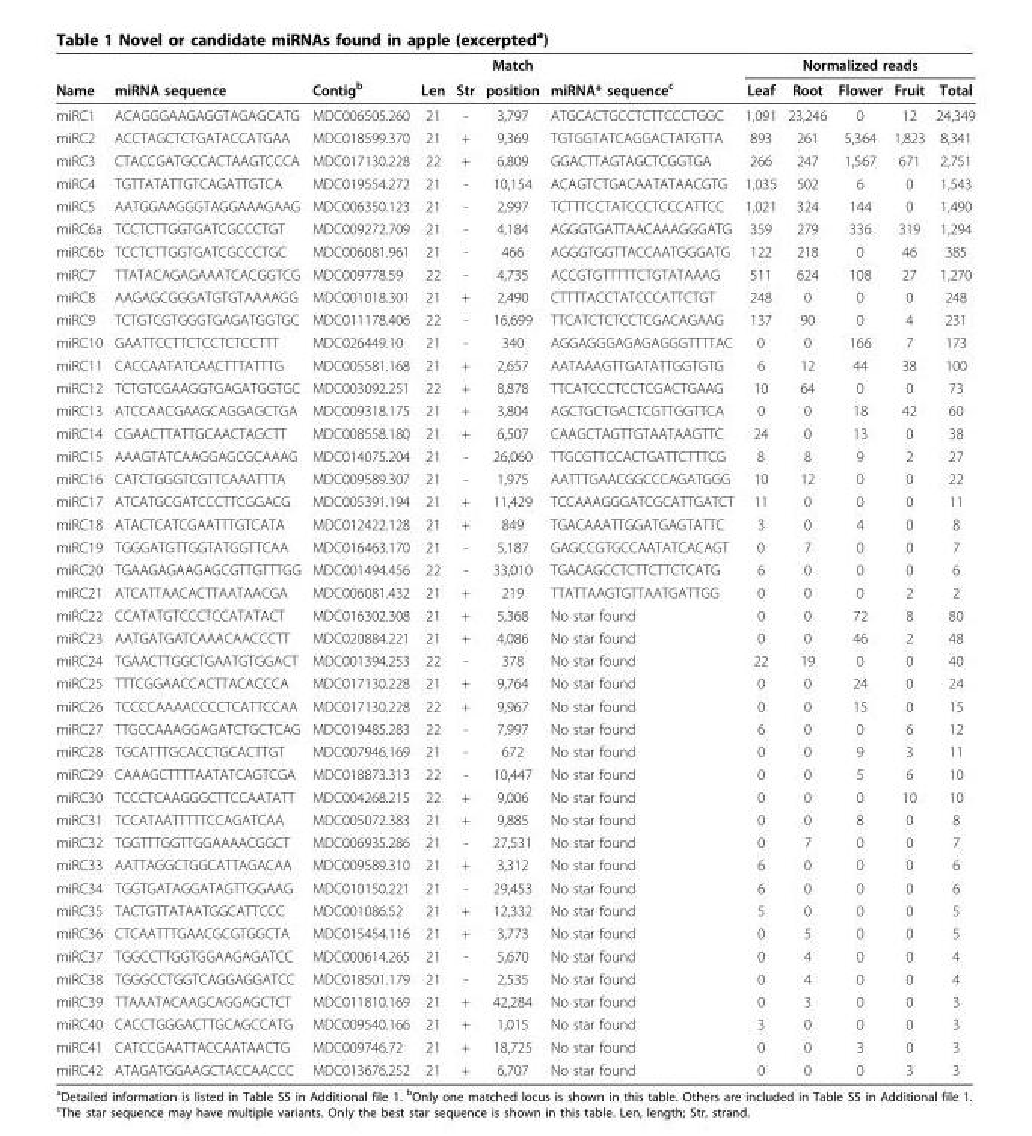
<table><thead><tr><td rowspan="2">Name</td><td rowspan="2">miRNA sequence</td><td rowspan="2">Contig<sup>b</sup></td><td rowspan="2">Len</td><td rowspan="2">Str</td><td rowspan="2">Match position</td><td rowspan="2">miRNA* sequence<sup>c</sup></td><td colspan="5">Normalized reads</td></tr><tr><td>Leaf</td><td>Root</td><td>Flower</td><td>Fruit</td><td>Total</td></tr></thead><tbody><tr><td>miRC1</td><td>ACAGGGAAGAGGTAGAGCATG</td><td>MDC006505.260</td><td>21</td><td>-</td><td>3,797</td><td>ATGCACTGCCTCTTCCCTGGC</td><td>1,091</td><td>23,246</td><td>0</td><td>12</td><td>24,349</td></tr><tr><td>miRC2</td><td>ACCTAGCTCTGATACCATGAA</td><td>MDC018599.370</td><td>21</td><td>+</td><td>9,369</td><td>TGTGGTATCAGGACTATGTTA</td><td>893</td><td>261</td><td>5,364</td><td>1,823</td><td>8,341</td></tr><tr><td>miRC3</td><td>CTACCGATGCCACTAAGTCCCA</td><td>MDC017130.228</td><td>22</td><td>+</td><td>6,809</td><td>GGACTTAGTAGCTCGGTGA</td><td>266</td><td>247</td><td>1,567</td><td>671</td><td>2,751</td></tr><tr><td>miRC4</td><td>TGTTATATTGTCAGATTGTCA</td><td>MDC019554.272</td><td>21</td><td>-</td><td>10,154</td><td>ACAGTCTGACAATATAACGTG</td><td>1,035</td><td>502</td><td>6</td><td>0</td><td>1,543</td></tr><tr><td>miRC5</td><td>AATGGAAGGGTAGGAAAGAAG</td><td>MDC006350.123</td><td>21</td><td>-</td><td>2,997</td><td>TCTTTCCTATCCCTCCCATTCC</td><td>1,021</td><td>324</td><td>144</td><td>0</td><td>1,490</td></tr><tr><td>miRC6a</td><td>TCCTCTTGGTGATCGCCCTGT</td><td>MDC009272.709</td><td>21</td><td>-</td><td>4,184</td><td>AGGGTGATTAACAAAGGGATG</td><td>359</td><td>279</td><td>336</td><td>319</td><td>1,294</td></tr><tr><td>miRC6b</td><td>TCCTCTTGGTGATCGCCCTGC</td><td>MDC006081.961</td><td>21</td><td>-</td><td>466</td><td>AGGGTGGTTACCAATGGGATG</td><td>122</td><td>218</td><td>0</td><td>46</td><td>385</td></tr><tr><td>miRC7</td><td>TTATACAGAGAAATCACGGTCG</td><td>MDC009778.59</td><td>22</td><td>-</td><td>4,735</td><td>ACCGTGTTTTTCTGTATAAAG</td><td>511</td><td>624</td><td>108</td><td>27</td><td>1,270</td></tr><tr><td>miRC8</td><td>AAGAGCGGGATGTGTAAAAGG</td><td>MDC001018.301</td><td>21</td><td>+</td><td>2,490</td><td>CTTTTACCTATCCCATTCTGT</td><td>248</td><td>0</td><td>0</td><td>0</td><td>248</td></tr><tr><td>miRC9</td><td>TCTGTCGTGGGTGAGATGGTGC</td><td>MDC011178.406</td><td>22</td><td>-</td><td>16,699</td><td>TTCATCTCTCCTCGACAGAAG</td><td>137</td><td>90</td><td>0</td><td>4</td><td>231</td></tr><tr><td>miRC10</td><td>GAATTCCTTCTCCTCTCCTTT</td><td>MDC026449.10</td><td>21</td><td>-</td><td>340</td><td>AGGAGGGAGAGAGGGTTTTAC</td><td>0</td><td>0</td><td>166</td><td>7</td><td>173</td></tr><tr><td>miRC11</td><td>CACCAATATCAACTTTATTTG</td><td>MDC005581.168</td><td>21</td><td>+</td><td>2,657</td><td>AATAAAGTTGATATTGGTGTG</td><td>6</td><td>12</td><td>44</td><td>38</td><td>100</td></tr><tr><td>miRC12</td><td>TCTGTCGAAGGTGAGATGGTGC</td><td>MDC003092.251</td><td>22</td><td>+</td><td>8,878</td><td>TTCATCCCTCCTCGACTGAAG</td><td>10</td><td>64</td><td>0</td><td>0</td><td>73</td></tr><tr><td>miRC13</td><td>ATCCAACGAAGCAGGAGCTGA</td><td>MDC009318.175</td><td>21</td><td>+</td><td>3,804</td><td>AGCTGCTGACTCGTTGGTTCA</td><td>0</td><td>0</td><td>18</td><td>42</td><td>60</td></tr><tr><td>miRC14</td><td>CGAACTTATTGCAACTAGCTT</td><td>MDC008558.180</td><td>21</td><td>+</td><td>6,507</td><td>CAAGCTAGTTGTAATAAGTTC</td><td>24</td><td>0</td><td>13</td><td>0</td><td>38</td></tr><tr><td>miRC15</td><td>AAAGTATCAAGGAGCGCAAAG</td><td>MDC014075.204</td><td>21</td><td>-</td><td>26,060</td><td>TTGCGTTCCACTGATTCTTTCG</td><td>8</td><td>8</td><td>9</td><td>2</td><td>27</td></tr><tr><td>miRC16</td><td>CATCTGGGTCGTTCAAATTTA</td><td>MDC009589.307</td><td>21</td><td>-</td><td>1,975</td><td>AATTTGAACGGCCCAGATGGG</td><td>10</td><td>12</td><td>0</td><td>0</td><td>22</td></tr><tr><td>miRC17</td><td>ATCATGCGATCCCTTCGGACG</td><td>MDC005391.194</td><td>21</td><td>+</td><td>11,429</td><td>TCCAAAGGGATCGCATTGATCT</td><td>11</td><td>0</td><td>0</td><td>0</td><td>11</td></tr><tr><td>miRC18</td><td>ATACTCATCGAATTTGTCATA</td><td>MDC012422.128</td><td>21</td><td>+</td><td>849</td><td>TGACAAATTGGATGAGTATTC</td><td>3</td><td>0</td><td>4</td><td>0</td><td>8</td></tr><tr><td>miRC19</td><td>TGGGATGTTGGTATGGTTCAA</td><td>MDC016463.170</td><td>21</td><td>-</td><td>5,187</td><td>GAGCCGTGCCAATATCACAGT</td><td>0</td><td>7</td><td>0</td><td>0</td><td>7</td></tr><tr><td>miRC20</td><td>TGAAGAGAAGAGCGTTGTTTGG</td><td>MDC001494.456</td><td>22</td><td>-</td><td>33,010</td><td>TGACAGCCTCTTCTTCTCATG</td><td>6</td><td>0</td><td>0</td><td>0</td><td>6</td></tr><tr><td>miRC21</td><td>ATCATTAACACTTAATAACGA</td><td>MDC006081.432</td><td>21</td><td>+</td><td>219</td><td>TTATTAAGTGTTAATGATTGG</td><td>0</td><td>0</td><td>0</td><td>2</td><td>2</td></tr><tr><td>miRC22</td><td>CCATATGTCCCTCCATATACT</td><td>MDC016302.308</td><td>21</td><td>+</td><td>5,368</td><td>No star found</td><td>0</td><td>0</td><td>72</td><td>8</td><td>80</td></tr><tr><td>miRC23</td><td>AATGATGATCAAACAACCCTT</td><td>MDC020884.221</td><td>21</td><td>+</td><td>4,086</td><td>No star found</td><td>0</td><td>0</td><td>46</td><td>2</td><td>48</td></tr><tr><td>miRC24</td><td>TGAACTTGGCTGAATGTGGACT</td><td>MDC001394.253</td><td>22</td><td>-</td><td>378</td><td>No star found</td><td>22</td><td>19</td><td>0</td><td>0</td><td>40</td></tr><tr><td>miRC25</td><td>TTTCGGAACCACTTACACCCA</td><td>MDC017130.228</td><td>21</td><td>+</td><td>9,764</td><td>No star found</td><td>0</td><td>0</td><td>24</td><td>0</td><td>24</td></tr><tr><td>miRC26</td><td>TCCCCAAAACCCCTCATTCCAA</td><td>MDC017130.228</td><td>22</td><td>+</td><td>9,967</td><td>No star found</td><td>0</td><td>0</td><td>15</td><td>0</td><td>15</td></tr><tr><td>miRC27</td><td>TTGCCAAAGGAGATCTGCTCAG</td><td>MDC019485.283</td><td>22</td><td>-</td><td>7,997</td><td>No star found</td><td>6</td><td>0</td><td>0</td><td>6</td><td>12</td></tr><tr><td>miRC28</td><td>TGCATTTGCACCTGCACTTGT</td><td>MDC007946.169</td><td>21</td><td>-</td><td>672</td><td>No star found</td><td>0</td><td>0</td><td>9</td><td>3</td><td>11</td></tr><tr><td>miRC29</td><td>CAAAGCTTTTAATATCAGTCGA</td><td>MDC018873.313</td><td>22</td><td>-</td><td>10,447</td><td>No star found</td><td>0</td><td>0</td><td>5</td><td>6</td><td>10</td></tr><tr><td>miRC30</td><td>TCCCTCAAGGGCTTCCAATATT</td><td>MDC004268.215</td><td>22</td><td>+</td><td>9,006</td><td>No star found</td><td>0</td><td>0</td><td>0</td><td>10</td><td>10</td></tr><tr><td>miRC31</td><td>TCCATAATTTTTCCAGATCAA</td><td>MDC005072.383</td><td>21</td><td>+</td><td>9,885</td><td>No star found</td><td>0</td><td>0</td><td>8</td><td>0</td><td>8</td></tr><tr><td>miRC32</td><td>TGGTTTGGTTGGAAAACGGCT</td><td>MDC006935.286</td><td>21</td><td>-</td><td>27,531</td><td>No star found</td><td>0</td><td>7</td><td>0</td><td>0</td><td>7</td></tr><tr><td>miRC33</td><td>AATTAGGCTGGCATTAGACAA</td><td>MDC009589.310</td><td>21</td><td>+</td><td>3,312</td><td>No star found</td><td>6</td><td>0</td><td>0</td><td>0</td><td>6</td></tr><tr><td>miRC34</td><td>TGGTGATAGGATAGTTGGAAG</td><td>MDC010150.221</td><td>21</td><td>-</td><td>29,453</td><td>No star found</td><td>6</td><td>0</td><td>0</td><td>0</td><td>6</td></tr><tr><td>miRC35</td><td>TACTGTTATAATGGCATTCCC</td><td>MDC001086.52</td><td>21</td><td>+</td><td>12,332</td><td>No star found</td><td>5</td><td>0</td><td>0</td><td>0</td><td>5</td></tr><tr><td>miRC36</td><td>CTCAATTTGAACGCGTGGCTA</td><td>MDC015454.116</td><td>21</td><td>+</td><td>3,773</td><td>No star found</td><td>0</td><td>5</td><td>0</td><td>0</td><td>5</td></tr><tr><td>miRC37</td><td>TGGCCTTGGTGGAAGAGATCC</td><td>MDC000614.265</td><td>21</td><td>-</td><td>5,670</td><td>No star found</td><td>0</td><td>4</td><td>0</td><td>0</td><td>4</td></tr><tr><td>miRC38</td><td>TGGGCCTGGTCAGGAGGATCC</td><td>MDC018501.179</td><td>21</td><td>-</td><td>2,535</td><td>No star found</td><td>0</td><td>4</td><td>0</td><td>0</td><td>4</td></tr><tr><td>miRC39</td><td>TTAAATACAAGCAGGAGCTCT</td><td>MDC011810.169</td><td>21</td><td>+</td><td>42,284</td><td>No star found</td><td>0</td><td>3</td><td>0</td><td>0</td><td>3</td></tr><tr><td>miRC40</td><td>CACCTGGGACTTGCAGCCATG</td><td>MDC009540.166</td><td>21</td><td>+</td><td>1,015</td><td>No star found</td><td>3</td><td>0</td><td>0</td><td>0</td><td>3</td></tr><tr><td>miRC41</td><td>CATCCGAATTACCAATAACTG</td><td>MDC009746.72</td><td>21</td><td>+</td><td>18,725</td><td>No star found</td><td>0</td><td>0</td><td>3</td><td>0</td><td>3</td></tr><tr><td>miRC42</td><td>ATAGATGGAAGCTACCAACCC</td><td>MDC013676.252</td><td>21</td><td>+</td><td>6,707</td><td>No star found</td><td>0</td><td>0</td><td>0</td><td>3</td><td>3</td></tr></tbody></table>